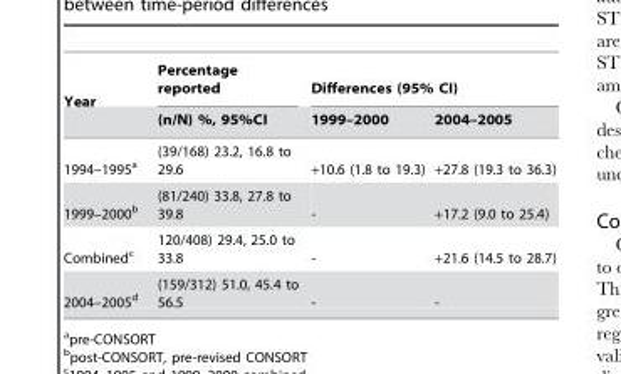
<table><thead><tr><td rowspan="2">Year</td><td rowspan="2">Percentage reported (n/N) %, 95%CI</td><td colspan="2">Differences (95% CI)</td></tr><tr><td>1999–2000</td><td>2004–2005</td></tr></thead><tbody><tr><td>1994–1995<sup>a</sup></td><td>(39/168) 23.2, 16.8 to 29.6</td><td>+10.6 (1.8 to 19.3)</td><td>+27.8 (19.3 to 36.3)</td></tr><tr><td>1999–2000<sup>b</sup></td><td>(81/240) 33.8, 27.8 to 39.8</td><td>-</td><td>+17.2 (9.0 to 25.4)</td></tr><tr><td>Combined<sup>c</sup></td><td>120/408) 29.4, 25.0 to 33.8</td><td>-</td><td>+21.6 (14.5 to 28.7)</td></tr><tr><td>2004–2005<sup>d</sup></td><td>(159/312) 51.0, 45.4 to 56.5</td><td>-</td><td>-</td></tr></tbody></table>